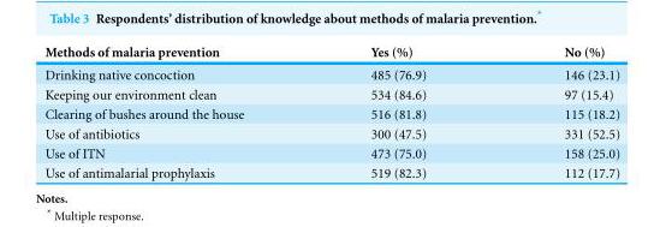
<table><thead><tr><td>Methods of malaria prevention</td><td>Yes (%)</td><td>No (%)</td></tr></thead><tbody><tr><td>Drinking native concoction</td><td>485 (76.9)</td><td>146 (23.1)</td></tr><tr><td>Keeping our environment clean</td><td>534 (84.6)</td><td>97 (15.4)</td></tr><tr><td>Clearing of bushes around the house</td><td>516 (81.8)</td><td>115 (18.2)</td></tr><tr><td>Use of antibiotics</td><td>300 (47.5)</td><td>331 (52.5)</td></tr><tr><td>Use of ITN</td><td>473 (75.0)</td><td>158 (25.0)</td></tr><tr><td>Use of antimalarial prophylaxis</td><td>519 (82.3)</td><td>112 (17.7)</td></tr></tbody></table>